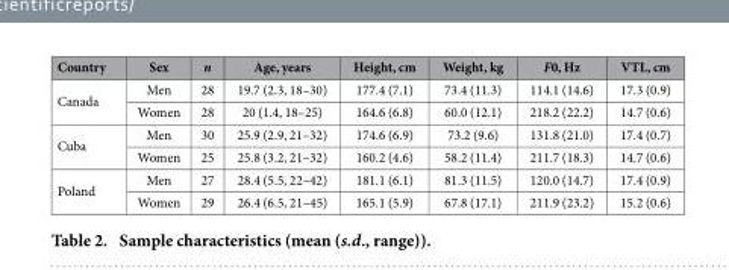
<table><thead><tr><td>Country</td><td>Sex</td><td>n</td><td>Age, years</td><td>Height, cm</td><td>Weight, kg</td><td>F0, Hz</td><td>VTL, cm</td></tr></thead><tbody><tr><td rowspan="2">Canada</td><td>Men</td><td>28</td><td>19.7 (2.3, 18–30)</td><td>177.4 (7.1)</td><td>73.4 (11.3)</td><td>114.1 (14.6)</td><td>17.3 (0.9)</td></tr><tr><td>Women</td><td>28</td><td>20 (1.4, 18–25)</td><td>164.6 (6.8)</td><td>60.0 (12.1)</td><td>218.2 (22.2)</td><td>14.7 (0.6)</td></tr><tr><td rowspan="2">Cuba</td><td>Men</td><td>30</td><td>25.9 (2.9, 21–32)</td><td>174.6 (6.9)</td><td>73.2 (9.6)</td><td>131.8 (21.0)</td><td>17.4 (0.7)</td></tr><tr><td>Women</td><td>25</td><td>25.8 (3.2, 21–32)</td><td>160.2 (4.6)</td><td>58.2 (11.4)</td><td>211.7 (18.3)</td><td>14.7 (0.6)</td></tr><tr><td rowspan="2">Poland</td><td>Men</td><td>27</td><td>28.4 (5.5, 22–42)</td><td>181.1 (6.1)</td><td>81.3 (11.5)</td><td>120.0 (14.7)</td><td>17.4 (0.9)</td></tr><tr><td>Women</td><td>29</td><td>26.4 (6.5, 21–45)</td><td>165.1 (5.9)</td><td>67.8 (17.1)</td><td>211.9 (23.2)</td><td>15.2 (0.6)</td></tr></tbody></table>